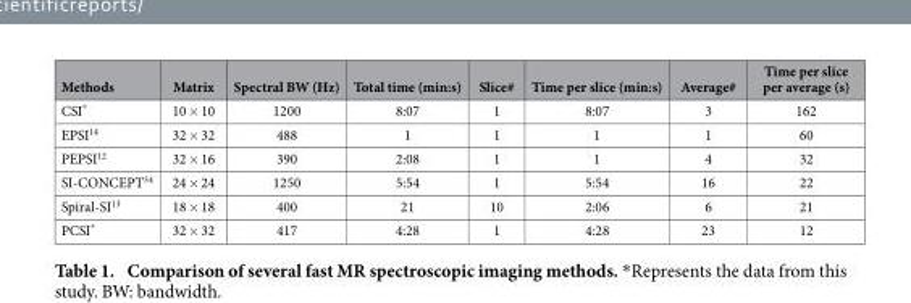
<table><thead><tr><td>Methods</td><td>Matrix</td><td>Spectral BW (Hz)</td><td>Total time (min:s)</td><td>Slice#</td><td>Time per slice (min:s)</td><td>Average#</td><td>Time per slice per average (s)</td></tr></thead><tbody><tr><td>CSI*</td><td>10 × 10</td><td>1200</td><td>8:07</td><td>1</td><td>8:07</td><td>3</td><td>162</td></tr><tr><td>EPSI<sup>14</sup></td><td>32 × 32</td><td>488</td><td>1</td><td>1</td><td>1</td><td>1</td><td>60</td></tr><tr><td>PEPSI<sup>12</sup></td><td>32 × 16</td><td>390</td><td>2:08</td><td>1</td><td>1</td><td>4</td><td>32</td></tr><tr><td>SI-CONCEPT<sup>34</sup></td><td>24 × 24</td><td>1250</td><td>5:54</td><td>1</td><td>5:54</td><td>16</td><td>22</td></tr><tr><td>Spiral-SI<sup>13</sup></td><td>18 × 18</td><td>400</td><td>21</td><td>10</td><td>2:06</td><td>6</td><td>21</td></tr><tr><td>PCSI*</td><td>32 × 32</td><td>417</td><td>4:28</td><td>1</td><td>4:28</td><td>23</td><td>12</td></tr></tbody></table>